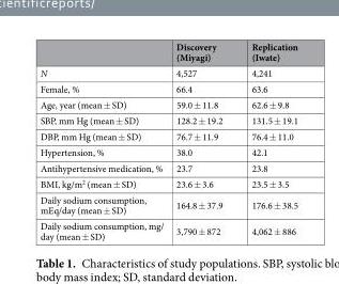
<table><thead><tr><td></td><td>Discovery (Miyagi)</td><td>Replication (Iwate)</td></tr></thead><tbody><tr><td>N</td><td>4,527</td><td>4,241</td></tr><tr><td>Female, %</td><td>66.4</td><td>63.6</td></tr><tr><td>Age, year (mean ± SD)</td><td>59.0 ± 11.8</td><td>62.6 ± 9.8</td></tr><tr><td>SBP, mm Hg (mean ± SD)</td><td>128.2 ± 19.2</td><td>131.5 ± 19.1</td></tr><tr><td>DBP, mm Hg (mean ± SD)</td><td>76.7 ± 11.9</td><td>76.4 ± 11.0</td></tr><tr><td>Hypertension, %</td><td>38.0</td><td>42.1</td></tr><tr><td>Antihypertensive medication, %</td><td>23.7</td><td>23.8</td></tr><tr><td>BMI, kg/m<sup>2</sup> (mean ± SD)</td><td>23.6 ± 3.6</td><td>23.5 ± 3.5</td></tr><tr><td>Daily sodium consumption, mEq/day (mean ± SD)</td><td>164.8 ± 37.9</td><td>176.6 ± 38.5</td></tr><tr><td>Daily sodium consumption, mg/ day (mean ± SD)</td><td>3,790 ± 872</td><td>4,062 ± 886</td></tr></tbody></table>